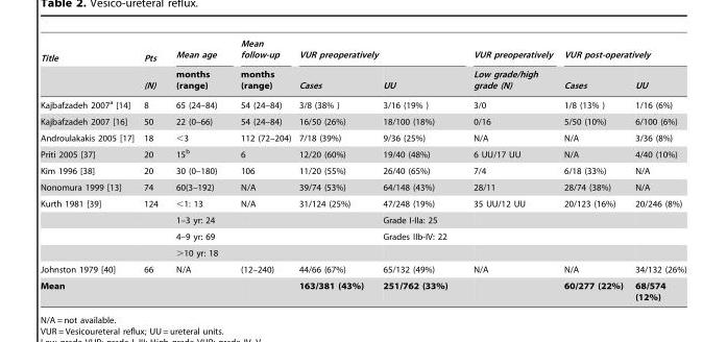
<table><thead><tr><td rowspan="2">Title</td><td rowspan="2">Pts (N)</td><td rowspan="2">Mean age months (range)</td><td rowspan="2">Mean follow-up months (range)</td><td colspan="2">VUR preoperatively</td><td rowspan="2">VUR preoperatively Low grade/high grade (N)</td><td colspan="2">VUR post-operatively</td></tr><tr><td>Cases</td><td>UU</td><td>Cases</td><td>UU</td></tr></thead><tbody><tr><td>Kajbafzadeh 2007<sup>a</sup> [14]</td><td>8</td><td>65 (24–84)</td><td>54 (24–84)</td><td>3/8 (38% )</td><td>3/16 (19% )</td><td>3/0</td><td>1/8 (13% )</td><td>1/16 (6%)</td></tr><tr><td>Kajbafzadeh 2007 [16]</td><td>50</td><td>22 (0–66)</td><td>54 (24–84)</td><td>16/50 (26%)</td><td>18/100 (18%)</td><td>0/16</td><td>5/50 (10%)</td><td>6/100 (6%)</td></tr><tr><td>Androulakakis 2005 [17]</td><td>18</td><td>&lt;3</td><td>112 (72–204)</td><td>7/18 (39%)</td><td>9/36 (25%)</td><td>N/A</td><td>N/A</td><td>3/36 (8%)</td></tr><tr><td>Priti 2005 [37]</td><td>20</td><td>15<sup>b</sup></td><td>6</td><td>12/20 (60%)</td><td>19/40 (48%)</td><td>6 UU/17 UU</td><td>N/A</td><td>4/40 (10%)</td></tr><tr><td>Kim 1996 [38]</td><td>20</td><td>30 (0–180)</td><td>106</td><td>11/20 (55%)</td><td>26/40 (65%)</td><td>7/4</td><td>6/18 (33%)</td><td>N/A</td></tr><tr><td>Nonomura 1999 [13]</td><td>74</td><td>60(3–192)</td><td>N/A</td><td>39/74 (53%)</td><td>64/148 (43%)</td><td>28/11</td><td>28/74 (38%)</td><td>N/A</td></tr><tr><td rowspan="4">Kurth 1981 [39]</td><td>124</td><td>&lt;1: 13</td><td>N/A</td><td>31/124 (25%)</td><td>47/248 (19%)</td><td>35 UU/12 UU</td><td>20/123 (16%)</td><td>20/246 (8%)</td></tr><tr><td></td><td>1–3 yr: 24</td><td></td><td></td><td>Grade I-IIa: 25</td><td></td><td></td><td></td></tr><tr><td></td><td>4–9 yr: 69</td><td></td><td></td><td>Grades IIb-IV: 22</td><td></td><td></td><td></td></tr><tr><td></td><td>&gt;10 yr: 18</td><td></td><td></td><td></td><td></td><td></td><td></td></tr><tr><td>Johnston 1979 [40]</td><td>66</td><td>N/A</td><td>(12–240)</td><td>44/66 (67%)</td><td>65/132 (49%)</td><td>N/A</td><td>N/A</td><td>34/132 (26%)</td></tr><tr><td>Mean</td><td></td><td></td><td></td><td>163/381 (43%)</td><td>251/762 (33%)</td><td></td><td>60/277 (22%)</td><td>68/574 (12%)</td></tr></tbody></table>